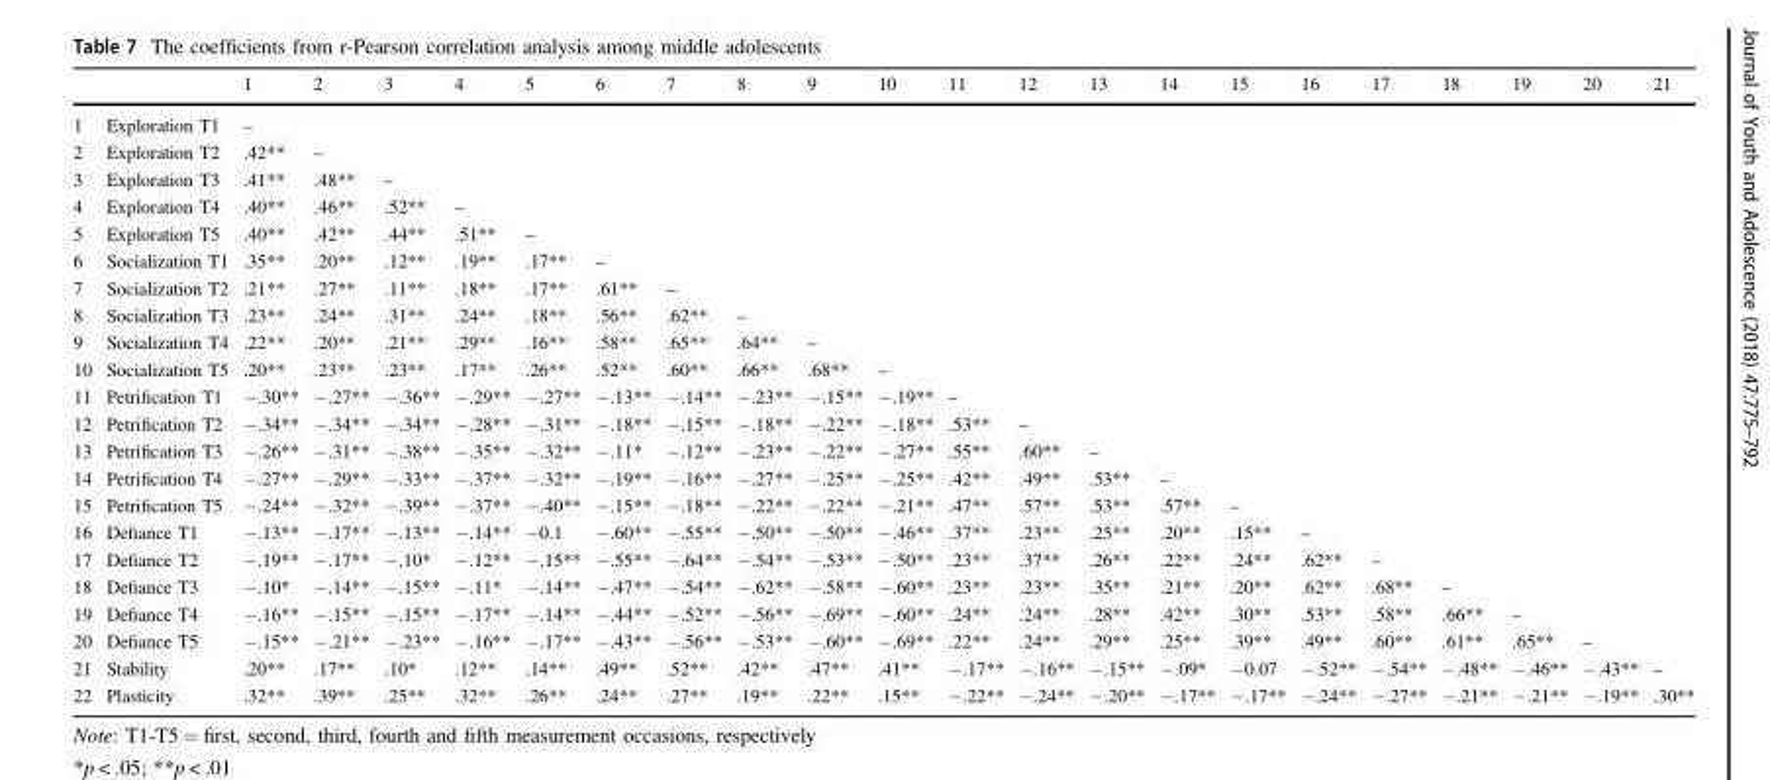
<table><thead><tr><td></td><td></td><td>1</td><td>2</td><td>3</td><td>4</td><td>5</td><td>6</td><td>7</td><td>8</td><td>9</td><td>10</td><td>11</td><td>12</td><td>13</td><td>14</td><td>15</td><td>16</td><td>17</td><td>18</td><td>19</td><td>20</td><td>21</td></tr></thead><tbody><tr><td>1</td><td>Exploration T1</td><td>–</td><td></td><td></td><td></td><td></td><td></td><td></td><td></td><td></td><td></td><td></td><td></td><td></td><td></td><td></td><td></td><td></td><td></td><td></td><td></td><td></td></tr><tr><td>2</td><td>Exploration T2</td><td>.42**</td><td>–</td><td></td><td></td><td></td><td></td><td></td><td></td><td></td><td></td><td></td><td></td><td></td><td></td><td></td><td></td><td></td><td></td><td></td><td></td><td></td></tr><tr><td>3</td><td>Exploration T3</td><td>.41**</td><td>.48**</td><td>–</td><td></td><td></td><td></td><td></td><td></td><td></td><td></td><td></td><td></td><td></td><td></td><td></td><td></td><td></td><td></td><td></td><td></td><td></td></tr><tr><td>4</td><td>Exploration T4</td><td>.40**</td><td>.46**</td><td>.52**</td><td>–</td><td></td><td></td><td></td><td></td><td></td><td></td><td></td><td></td><td></td><td></td><td></td><td></td><td></td><td></td><td></td><td></td><td></td></tr><tr><td>5</td><td>Exploration T5</td><td>.40**</td><td>.42**</td><td>.44**</td><td>.51**</td><td>–</td><td></td><td></td><td></td><td></td><td></td><td></td><td></td><td></td><td></td><td></td><td></td><td></td><td></td><td></td><td></td><td></td></tr><tr><td>6</td><td>Socialization T1</td><td>.35**</td><td>.20**</td><td>.12**</td><td>.19**</td><td>.17**</td><td>–</td><td></td><td></td><td></td><td></td><td></td><td></td><td></td><td></td><td></td><td></td><td></td><td></td><td></td><td></td><td></td></tr><tr><td>7</td><td>Socialization T2</td><td>.21**</td><td>.27**</td><td>.11**</td><td>.18**</td><td>.17**</td><td>.61**</td><td>–</td><td></td><td></td><td></td><td></td><td></td><td></td><td></td><td></td><td></td><td></td><td></td><td></td><td></td><td></td></tr><tr><td>8</td><td>Socialization T3</td><td>.23**</td><td>.24**</td><td>.31**</td><td>.24**</td><td>.18**</td><td>.56**</td><td>.62**</td><td>–</td><td></td><td></td><td></td><td></td><td></td><td></td><td></td><td></td><td></td><td></td><td></td><td></td><td></td></tr><tr><td>9</td><td>Socialization T4</td><td>.22**</td><td>.20**</td><td>.21**</td><td>.29**</td><td>.16**</td><td>.58**</td><td>.65**</td><td>.64**</td><td>–</td><td></td><td></td><td></td><td></td><td></td><td></td><td></td><td></td><td></td><td></td><td></td><td></td></tr><tr><td>10</td><td>Socialization T5</td><td>.20**</td><td>.23**</td><td>.23**</td><td>.17**</td><td>.26**</td><td>.52**</td><td>.60**</td><td>.66**</td><td>.68**</td><td>–</td><td></td><td></td><td></td><td></td><td></td><td></td><td></td><td></td><td></td><td></td><td></td></tr><tr><td>11</td><td>Petrification T1</td><td>−.30**</td><td>−.27**</td><td>−.36**</td><td>−.29**</td><td>−.27**</td><td>−.13**</td><td>−.14**</td><td>−.23**</td><td>−.15**</td><td>−.19**</td><td>–</td><td></td><td></td><td></td><td></td><td></td><td></td><td></td><td></td><td></td><td></td></tr><tr><td>12</td><td>Petrification T2</td><td>−.34**</td><td>−.34**</td><td>−.34**</td><td>−.28**</td><td>−.31**</td><td>−.18**</td><td>−.15**</td><td>−.18**</td><td>−.22**</td><td>−.18**</td><td>.53**</td><td>–</td><td></td><td></td><td></td><td></td><td></td><td></td><td></td><td></td><td></td></tr><tr><td>13</td><td>Petrification T3</td><td>−.26**</td><td>−.31**</td><td>−.38**</td><td>−.35**</td><td>−.32**</td><td>−.11*</td><td>−.12**</td><td>−.23**</td><td>−.22**</td><td>−.27**</td><td>.55**</td><td>.60**</td><td>–</td><td></td><td></td><td></td><td></td><td></td><td></td><td></td><td></td></tr><tr><td>14</td><td>Petrification T4</td><td>−.27**</td><td>−.29**</td><td>−.33**</td><td>−.37**</td><td>−.32**</td><td>−.19**</td><td>−.16**</td><td>−.27**</td><td>−.25**</td><td>−.25**</td><td>.42**</td><td>.49**</td><td>.53**</td><td>–</td><td></td><td></td><td></td><td></td><td></td><td></td><td></td></tr><tr><td>15</td><td>Petrification T5</td><td>−.24**</td><td>−.32**</td><td>−.39**</td><td>−.37**</td><td>−.40**</td><td>−.15**</td><td>−.18**</td><td>−.22**</td><td>−.22**</td><td>−.21**</td><td>.47**</td><td>.57**</td><td>.53**</td><td>.57**</td><td>–</td><td></td><td></td><td></td><td></td><td></td><td></td></tr><tr><td>16</td><td>Defiance T1</td><td>−.13**</td><td>−.17**</td><td>−.13**</td><td>−.14**</td><td>−0.1</td><td>−.60**</td><td>−.55**</td><td>−.50**</td><td>−.50**</td><td>−.46**</td><td>.37**</td><td>.23**</td><td>.25**</td><td>.20**</td><td>.15**</td><td>–</td><td></td><td></td><td></td><td></td><td></td></tr><tr><td>17</td><td>Defiance T2</td><td>−.19**</td><td>−.17**</td><td>−.10*</td><td>−.12**</td><td>−.15**</td><td>−.55**</td><td>−.64**</td><td>−.54**</td><td>−.53**</td><td>−.50**</td><td>.23**</td><td>.37**</td><td>.26**</td><td>.22**</td><td>.24**</td><td>.62**</td><td>–</td><td></td><td></td><td></td><td></td></tr><tr><td>18</td><td>Defiance T3</td><td>−.10*</td><td>−.14**</td><td>−.15**</td><td>−.11*</td><td>−.14**</td><td>−.47**</td><td>−.54**</td><td>−.62**</td><td>−.58**</td><td>−.60**</td><td>.23**</td><td>.23**</td><td>.35**</td><td>.21**</td><td>.20**</td><td>.62**</td><td>.68**</td><td>–</td><td></td><td></td><td></td></tr><tr><td>19</td><td>Defiance T4</td><td>−.16**</td><td>−.15**</td><td>−.15**</td><td>−.17**</td><td>−.14**</td><td>−.44**</td><td>−.52**</td><td>−.56**</td><td>−.69**</td><td>−.60**</td><td>.24**</td><td>.24**</td><td>.28**</td><td>.42**</td><td>.30**</td><td>.53**</td><td>.58**</td><td>.66**</td><td>–</td><td></td><td></td></tr><tr><td>20</td><td>Defiance T5</td><td>−.15**</td><td>−.21**</td><td>−.23**</td><td>−.16**</td><td>−.17**</td><td>−.43**</td><td>−.56**</td><td>−.53**</td><td>−.60**</td><td>−.69**</td><td>.22**</td><td>.24**</td><td>.29**</td><td>.25**</td><td>.39**</td><td>.49**</td><td>.60**</td><td>.61**</td><td>.65**</td><td>–</td><td></td></tr><tr><td>21</td><td>Stability</td><td>.20**</td><td>.17**</td><td>.10*</td><td>.12**</td><td>.14**</td><td>.49**</td><td>.52**</td><td>.42**</td><td>.47**</td><td>.41**</td><td>−.17**</td><td>−.16**</td><td>−.15**</td><td>−.09*</td><td>−0.07</td><td>−.52**</td><td>−.54**</td><td>−.48**</td><td>−.46**</td><td>−.43**</td><td>–</td></tr><tr><td>22</td><td>Plasticity</td><td>.32**</td><td>.39**</td><td>.25**</td><td>.32**</td><td>.26**</td><td>.24**</td><td>.27**</td><td>.19**</td><td>.22**</td><td>.15**</td><td>−.22**</td><td>−.24**</td><td>−.20**</td><td>−.17**</td><td>−.17**</td><td>−.24**</td><td>−.27**</td><td>−.21**</td><td>−.21**</td><td>−.19**</td><td>.30**</td></tr></tbody></table>